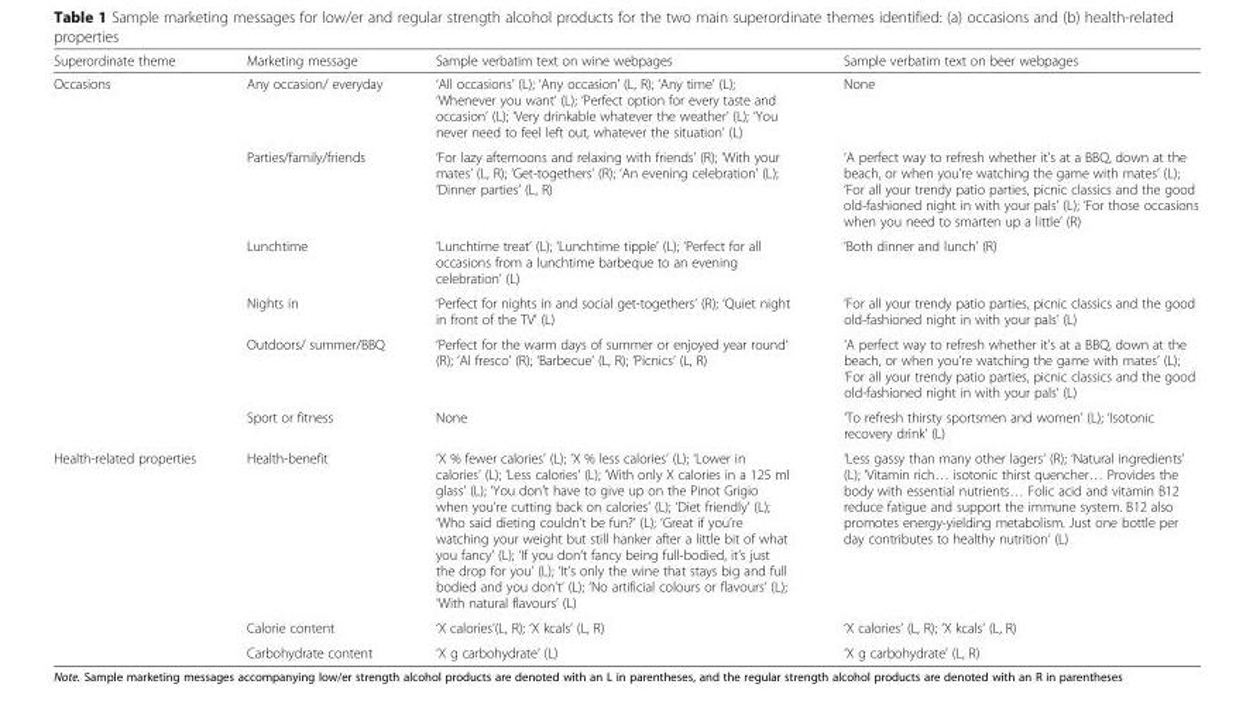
<table><thead><tr><td>Superordinate theme</td><td>Marketing message</td><td>Sample verbatim text on wine webpages</td><td>Sample verbatim text on beer webpages</td></tr></thead><tbody><tr><td rowspan="6">Occasions</td><td>Any occasion/ everyday</td><td>‘All occasions’ (L); ‘Any occasion’ (L, R); ‘Any time’ (L); ‘Whenever you want’ (L); ‘Perfect option for every taste and occasion’ (L); ‘Very drinkable whatever the weather’ (L); ‘You never need to feel left out, whatever the situation’ (L)</td><td>None</td></tr><tr><td>Parties/family/friends</td><td>‘For lazy afternoons and relaxing with friends’ (R); ‘With your mates’ (L, R); ‘Get-togethers’ (R); ‘An evening celebration’ (L); ‘Dinner parties’ (L, R)</td><td>‘A perfect way to refresh whether it’s at a BBQ, down at the beach, or when you’re watching the game with mates’ (L); ‘For all your trendy patio parties, picnic classics and the good old-fashioned night in with your pals’ (L); ‘For those occasions when you need to smarten up a little’ (R)</td></tr><tr><td>Lunchtime</td><td>‘Lunchtime treat’ (L); ‘Lunchtime tipple’ (L); ‘Perfect for all occasions from a lunchtime barbeque to an evening celebration’ (L)</td><td>‘Both dinner and lunch’ (R)</td></tr><tr><td>Nights in</td><td>‘Perfect for nights in and social get-togethers’ (R); ‘Quiet night in front of the TV’ (L)</td><td>‘For all your trendy patio parties, picnic classics and the good old-fashioned night in with your pals’ (L)</td></tr><tr><td>Outdoors/ summer/BBQ</td><td>‘Perfect for the warm days of summer or enjoyed year round’ (R); ‘Al fresco’ (R); ‘Barbecue’ (L, R); ‘Picnics’ (L, R)</td><td>‘A perfect way to refresh whether it’s at a BBQ, down at the beach, or when you’re watching the game with mates’ (L); ‘For all your trendy patio parties, picnic classics and the good old-fashioned night in with your pals’ (L)</td></tr><tr><td>Sport or fitness</td><td>None</td><td>‘To refresh thirsty sportsmen and women’ (L); ‘Isotonic recovery drink’ (L)</td></tr><tr><td rowspan="3">Health-related properties</td><td>Health-benefit</td><td>‘X % fewer calories’ (L); ‘X % less calories’ (L); ‘Lower in calories’ (L); ‘Less calories’ (L); ‘With only X calories in a 125 ml glass’ (L); ‘You don’t have to give up on the Pinot Grigio when you’re cutting back on calories’ (L); ‘Diet friendly’ (L); ‘Who said dieting couldn’t be fun?’ (L); ‘Great if you’re watching your weight but still hanker after a little bit of what you fancy’ (L); ‘If you don’t fancy being full-bodied, it’s just the drop for you’ (L); ‘It’s only the wine that stays big and full bodied and you don’t’ (L); ‘No artificial colours or flavours’ (L); ‘With natural flavours’ (L)</td><td>‘Less gassy than many other lagers’ (R); ‘Natural ingredients’ (L); ‘Vitamin rich… isotonic thirst quencher… Provides the body with essential nutrients… Folic acid and vitamin B12 reduce fatigue and support the immune system. B12 also promotes energy-yielding metabolism. Just one bottle per day contributes to healthy nutrition’ (L)</td></tr><tr><td>Calorie content</td><td>‘X calories’(L, R); ‘X kcals’ (L, R)</td><td>‘X calories’ (L, R); ‘X kcals’ (L, R)</td></tr><tr><td>Carbohydrate content</td><td>‘X g carbohydrate’ (L)</td><td>‘X g carbohydrate’ (L, R)</td></tr></tbody></table>